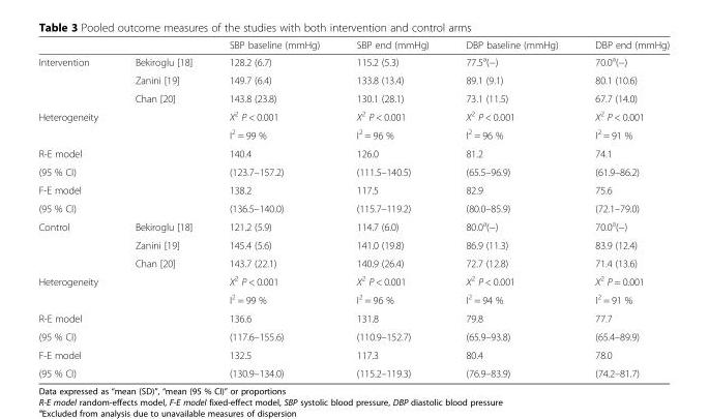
<table><thead><tr><td></td><td></td><td>SBP baseline (mmHg)</td><td>SBP end (mmHg)</td><td>DBP baseline (mmHg)</td><td>DBP end (mmHg)</td></tr></thead><tbody><tr><td rowspan="3">Intervention</td><td>Bekiroglu [18]</td><td>128.2 (6.7)</td><td>115.2 (5.3)</td><td>77.5<sup>a</sup>(−)</td><td>70.0<sup>a</sup>(−)</td></tr><tr><td>Zanini [19]</td><td>149.7 (6.4)</td><td>133.8 (13.4)</td><td>89.1 (9.1)</td><td>80.1 (10.6)</td></tr><tr><td>Chan [20]</td><td>143.8 (23.8)</td><td>130.1 (28.1)</td><td>73.1 (11.5)</td><td>67.7 (14.0)</td></tr><tr><td rowspan="2">Heterogeneity</td><td rowspan="2"></td><td>X<sup>2</sup> P &lt; 0.001</td><td>X<sup>2</sup> P &lt; 0.001</td><td>X<sup>2</sup> P &lt; 0.001</td><td>X<sup>2</sup> P &lt; 0.001</td></tr><tr><td>I<sup>2</sup> = 99 %</td><td>I<sup>2</sup> = 96 %</td><td>I<sup>2</sup> = 96 %</td><td>I<sup>2</sup> = 91 %</td></tr><tr><td>R-E model</td><td></td><td>140.4</td><td>126.0</td><td>81.2</td><td>74.1</td></tr><tr><td>(95 % CI)</td><td></td><td>(123.7–157.2)</td><td>(111.5–140.5)</td><td>(65.5–96.9)</td><td>(61.9–86.2)</td></tr><tr><td>F-E model</td><td></td><td>138.2</td><td>117.5</td><td>82.9</td><td>75.6</td></tr><tr><td>(95 % CI)</td><td></td><td>(136.5–140.0)</td><td>(115.7–119.2)</td><td>(80.0–85.9)</td><td>(72.1–79.0)</td></tr><tr><td rowspan="3">Control</td><td>Bekiroglu [18]</td><td>121.2 (5.9)</td><td>114.7 (6.0)</td><td>80.0<sup>a</sup>(−)</td><td>70.0<sup>a</sup>(−)</td></tr><tr><td>Zanini [19]</td><td>145.4 (5.6)</td><td>141.0 (19.8)</td><td>86.9 (11.3)</td><td>83.9 (12.4)</td></tr><tr><td>Chan [20]</td><td>143.7 (22.1)</td><td>140.9 (26.4)</td><td>72.7 (12.8)</td><td>71.4 (13.6)</td></tr><tr><td rowspan="2">Heterogeneity</td><td rowspan="2"></td><td>X<sup>2</sup> P &lt; 0.001</td><td>X<sup>2</sup> P &lt; 0.001</td><td>X<sup>2</sup> P &lt; 0.001</td><td>X<sup>2</sup> P = 0.001</td></tr><tr><td>I<sup>2</sup> = 99 %</td><td>I<sup>2</sup> = 96 %</td><td>I<sup>2</sup> = 94 %</td><td>I<sup>2</sup> = 91 %</td></tr><tr><td>R-E model</td><td></td><td>136.6</td><td>131.8</td><td>79.8</td><td>77.7</td></tr><tr><td>(95 % CI)</td><td></td><td>(117.6–155.6)</td><td>(110.9–152.7)</td><td>(65.9–93.8)</td><td>(65.4–89.9)</td></tr><tr><td>F-E model</td><td></td><td>132.5</td><td>117.3</td><td>80.4</td><td>78.0</td></tr><tr><td>(95 % CI)</td><td></td><td>(130.9–134.0)</td><td>(115.2–119.3)</td><td>(76.9–83.9)</td><td>(74.2–81.7)</td></tr></tbody></table>